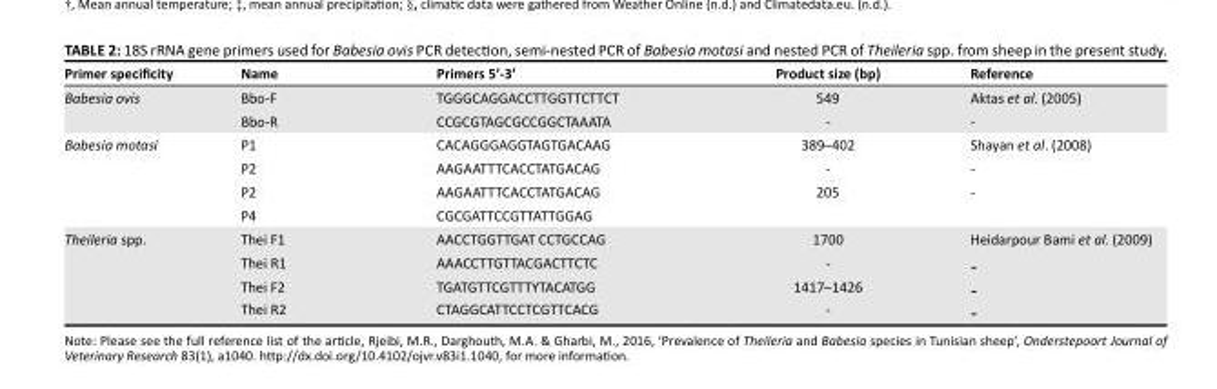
<table><thead><tr><td>Primer specificity</td><td>Name</td><td>Primers 5’-3’</td><td>Product size (bp)</td><td>Reference</td></tr></thead><tbody><tr><td rowspan="2">Babesia ovis</td><td>Bbo-F</td><td>TGGGCAGGACCTTGGTTCTTCT</td><td>549</td><td>Aktas et al. (2005)</td></tr><tr><td>Bbo-R</td><td>CCGCGTAGCGCCGGCTAAATA</td><td>-</td><td>-</td></tr><tr><td rowspan="4">Babesia motasi</td><td>P1</td><td>CACAGGGAGGTAGTGACAAG</td><td>389–402</td><td>Shayan et al. (2008)</td></tr><tr><td>P2</td><td>AAGAATTTCACCTATGACAG</td><td>-</td><td>-</td></tr><tr><td>P2</td><td>AAGAATTTCACCTATGACAG</td><td>205</td><td>-</td></tr><tr><td>P4</td><td>CGCGATTCCGTTATTGGAG</td><td></td><td></td></tr><tr><td rowspan="4">Theileria spp.</td><td>Thei F1</td><td>AACCTGGTTGAT CCTGCCAG</td><td>1700</td><td>Heidarpour Bami et al. (2009)</td></tr><tr><td>Thei R1</td><td>AAACCTTGTTACGACTTCTC</td><td>-</td><td>-</td></tr><tr><td>Thei F2</td><td>TGATGTTCGTTTYTACATGG</td><td>1417–1426</td><td>-</td></tr><tr><td>Thei R2</td><td>CTAGGCATTCCTCGTTCACG</td><td>-</td><td>-</td></tr></tbody></table>